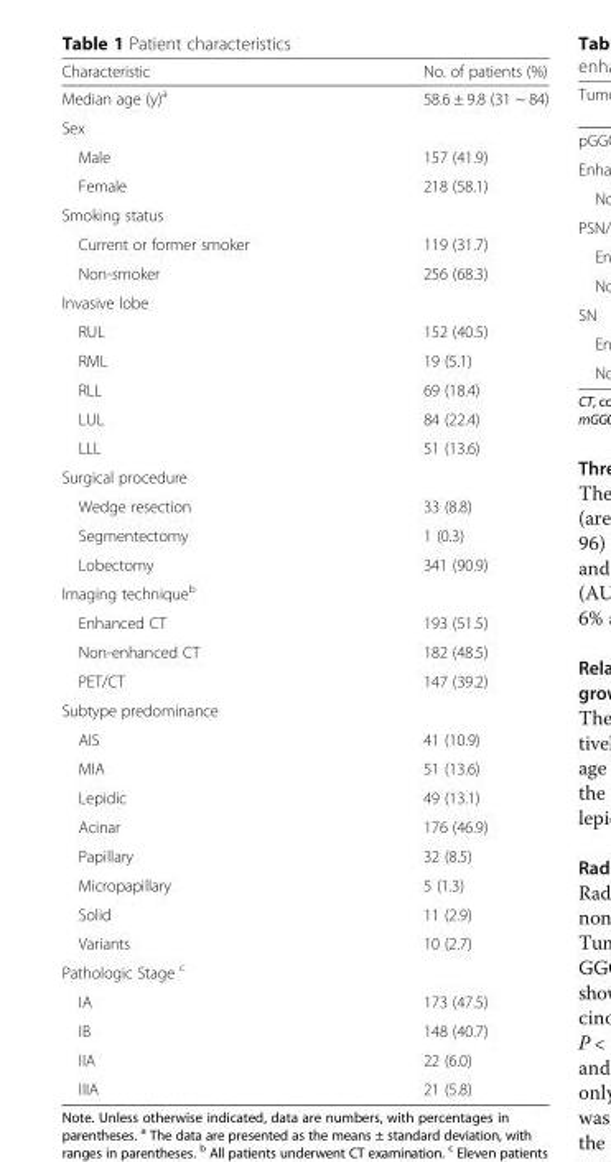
<table><thead><tr><td>Characteristic</td><td>No. of patients (%)</td></tr></thead><tbody><tr><td>Median age (y)<sup>a</sup></td><td>58.6 ± 9.8 (31 ~ 84)</td></tr><tr><td colspan="2">Sex</td></tr><tr><td>Male</td><td>157 (41.9)</td></tr><tr><td>Female</td><td>218 (58.1)</td></tr><tr><td colspan="2">Smoking status</td></tr><tr><td>Current or former smoker</td><td>119 (31.7)</td></tr><tr><td>Non-smoker</td><td>256 (68.3)</td></tr><tr><td colspan="2">Invasive lobe</td></tr><tr><td>RUL</td><td>152 (40.5)</td></tr><tr><td>RML</td><td>19 (5.1)</td></tr><tr><td>RLL</td><td>69 (18.4)</td></tr><tr><td>LUL</td><td>84 (22.4)</td></tr><tr><td>LLL</td><td>51 (13.6)</td></tr><tr><td colspan="2">Surgical procedure</td></tr><tr><td>Wedge resection</td><td>33 (8.8)</td></tr><tr><td>Segmentectomy</td><td>1 (0.3)</td></tr><tr><td>Lobectomy</td><td>341 (90.9)</td></tr><tr><td colspan="2">Imaging technique<sup>b</sup></td></tr><tr><td>Enhanced CT</td><td>193 (51.5)</td></tr><tr><td>Non-enhanced CT</td><td>182 (48.5)</td></tr><tr><td>PET/CT</td><td>147 (39.2)</td></tr><tr><td colspan="2">Subtype predominance</td></tr><tr><td>AIS</td><td>41 (10.9)</td></tr><tr><td>MIA</td><td>51 (13.6)</td></tr><tr><td>Lepidic</td><td>49 (13.1)</td></tr><tr><td>Acinar</td><td>176 (46.9)</td></tr><tr><td>Papillary</td><td>32 (8.5)</td></tr><tr><td>Micropapillary</td><td>5 (1.3)</td></tr><tr><td>Solid</td><td>11 (2.9)</td></tr><tr><td>Variants</td><td>10 (2.7)</td></tr><tr><td colspan="2">Pathologic Stage <sup>c</sup></td></tr><tr><td>IA</td><td>173 (47.5)</td></tr><tr><td>IB</td><td>148 (40.7)</td></tr><tr><td>IIA</td><td>22 (6.0)</td></tr><tr><td>IIIA</td><td>21 (5.8)</td></tr></tbody></table>